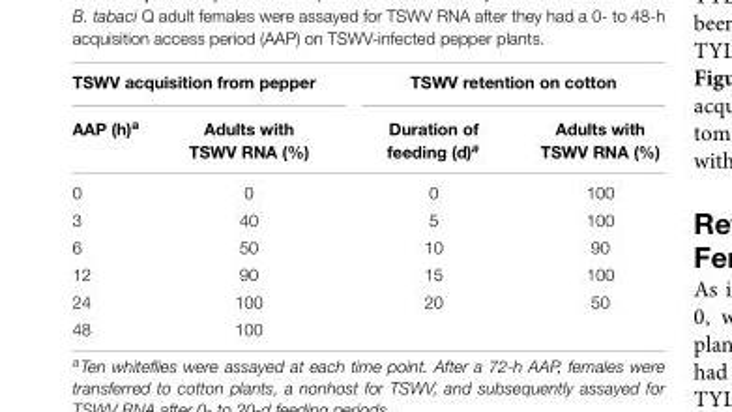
<table><thead><tr><td colspan="2">TSWV acquisition from pepper</td><td colspan="2">TSWV retention on cotton</td></tr><tr><td>AAP (h)<sup>a</sup></td><td>Adults with TSWV RNA (%)</td><td>Duration of feeding (d)<sup>a</sup></td><td>Adults with TSWV RNA (%)</td></tr></thead><tbody><tr><td>0</td><td>0</td><td>0</td><td>100</td></tr><tr><td>3</td><td>40</td><td>5</td><td>100</td></tr><tr><td>6</td><td>50</td><td>10</td><td>90</td></tr><tr><td>12</td><td>90</td><td>15</td><td>100</td></tr><tr><td>24</td><td>100</td><td>20</td><td>50</td></tr><tr><td>48</td><td>100</td><td></td><td></td></tr></tbody></table>